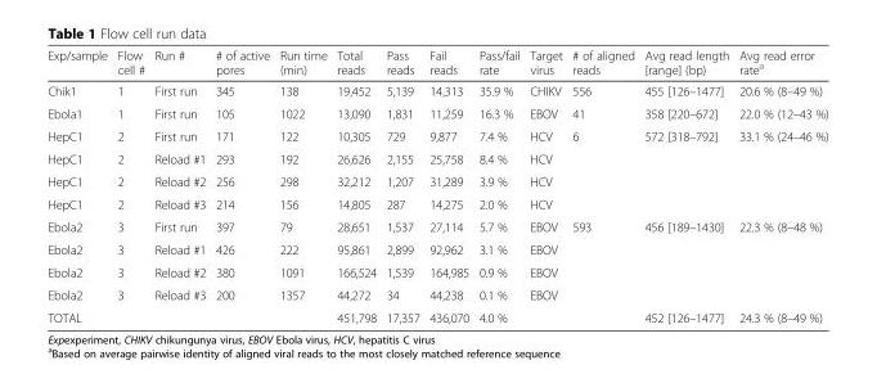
<table><thead><tr><td>Exp/sample</td><td>Flow cell #</td><td>Run #</td><td># of active pores</td><td>Run time (min)</td><td>Total reads</td><td>Pass reads</td><td>Fail reads</td><td>Pass/fail rate</td><td>Target virus</td><td># of aligned reads</td><td>Avg read length [range] (bp)</td><td>Avg read error rate<sup>a</sup></td></tr></thead><tbody><tr><td>Chik1</td><td>1</td><td>First run</td><td>345</td><td>138</td><td>19,452</td><td>5,139</td><td>14,313</td><td>35.9 %</td><td>CHIKV</td><td>556</td><td>455 [126–1477]</td><td>20.6 % (8–49 %)</td></tr><tr><td>Ebola1</td><td>1</td><td>First run</td><td>105</td><td>1022</td><td>13,090</td><td>1,831</td><td>11,259</td><td>16.3 %</td><td>EBOV</td><td>41</td><td>358 [220–672]</td><td>22.0 % (12–43 %)</td></tr><tr><td>HepC1</td><td>2</td><td>First run</td><td>171</td><td>122</td><td>10,305</td><td>729</td><td>9,877</td><td>7.4 %</td><td>HCV</td><td>6</td><td>572 [318–792]</td><td>33.1 % (24–46 %)</td></tr><tr><td>HepC1</td><td>2</td><td>Reload #1</td><td>293</td><td>192</td><td>26,626</td><td>2,155</td><td>25,758</td><td>8.4 %</td><td>HCV</td><td></td><td></td><td></td></tr><tr><td>HepC1</td><td>2</td><td>Reload #2</td><td>256</td><td>298</td><td>32,212</td><td>1,207</td><td>31,289</td><td>3.9 %</td><td>HCV</td><td></td><td></td><td></td></tr><tr><td>HepC1</td><td>2</td><td>Reload #3</td><td>214</td><td>156</td><td>14,805</td><td>287</td><td>14,275</td><td>2.0 %</td><td>HCV</td><td></td><td></td><td></td></tr><tr><td>Ebola2</td><td>3</td><td>First run</td><td>397</td><td>79</td><td>28,651</td><td>1,537</td><td>27,114</td><td>5.7 %</td><td>EBOV</td><td>593</td><td>456 [189–1430]</td><td>22.3 % (8–48 %)</td></tr><tr><td>Ebola2</td><td>3</td><td>Reload #1</td><td>426</td><td>222</td><td>95,861</td><td>2,899</td><td>92,962</td><td>3.1 %</td><td>EBOV</td><td></td><td></td><td></td></tr><tr><td>Ebola2</td><td>3</td><td>Reload #2</td><td>380</td><td>1091</td><td>166,524</td><td>1,539</td><td>164,985</td><td>0.9 %</td><td>EBOV</td><td></td><td></td><td></td></tr><tr><td>Ebola2</td><td>3</td><td>Reload #3</td><td>200</td><td>1357</td><td>44,272</td><td>34</td><td>44,238</td><td>0.1 %</td><td>EBOV</td><td></td><td></td><td></td></tr><tr><td>TOTAL</td><td></td><td></td><td></td><td></td><td>451,798</td><td>17,357</td><td>436,070</td><td>4.0 %</td><td></td><td></td><td>452 [126–1477]</td><td>24.3 % (8–49 %)</td></tr></tbody></table>